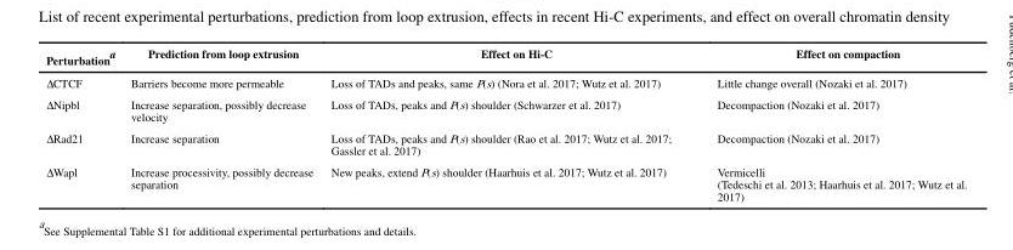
<table><thead><tr><td>Perturbation<sup>a</sup></td><td>Prediction from loop extrusion</td><td>Effect on Hi-C</td><td>Effect on compaction</td></tr></thead><tbody><tr><td>ΔCTCF</td><td>Barriers become more permeable</td><td>Loss of TADs and peaks, same P(s) (Nora et al. 2017; Wutz et al. 2017)</td><td>Little change overall (Nozaki et al. 2017)</td></tr><tr><td>ΔNipbl</td><td>Increase separation, possibly decrease velocity</td><td>Loss of TADs, peaks and P(s) shoulder (Schwarzer et al. 2017)</td><td>Decompaction (Nozaki et al. 2017)</td></tr><tr><td>ΔRad21</td><td>Increase separation</td><td>Loss of TADs, peaks and P(s) shoulder (Rao et al. 2017; Wutz et al. 2017; Gassler et al. 2017)</td><td>Decompaction (Nozaki et al. 2017)</td></tr><tr><td>ΔWapl</td><td>Increase processivity, possibly decrease separation</td><td>New peaks, extend P(s) shoulder (Haarhuis et al. 2017; Wutz et al. 2017)</td><td>Vermicelli (Tedeschi et al. 2013; Haarhuis et al. 2017; Wutz et al. 2017)</td></tr></tbody></table>